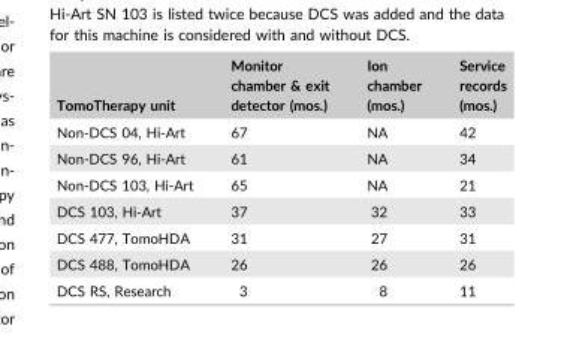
<table><thead><tr><td>TomoTherapy unit</td><td>Monitor chamber &amp; exit detector (mos.)</td><td>Ion chamber (mos.)</td><td>Service records (mos.)</td></tr></thead><tbody><tr><td>Non-DCS 04, Hi-Art</td><td>67</td><td>NA</td><td>42</td></tr><tr><td>Non-DCS 96, Hi-Art</td><td>61</td><td>NA</td><td>34</td></tr><tr><td>Non-DCS 103, Hi-Art</td><td>65</td><td>NA</td><td>21</td></tr><tr><td>DCS 103, Hi-Art</td><td>37</td><td>32</td><td>33</td></tr><tr><td>DCS 477, TomoHDA</td><td>31</td><td>27</td><td>31</td></tr><tr><td>DCS 488, TomoHDA</td><td>26</td><td>26</td><td>26</td></tr><tr><td>DCS RS, Research</td><td>3</td><td>8</td><td>11</td></tr></tbody></table>